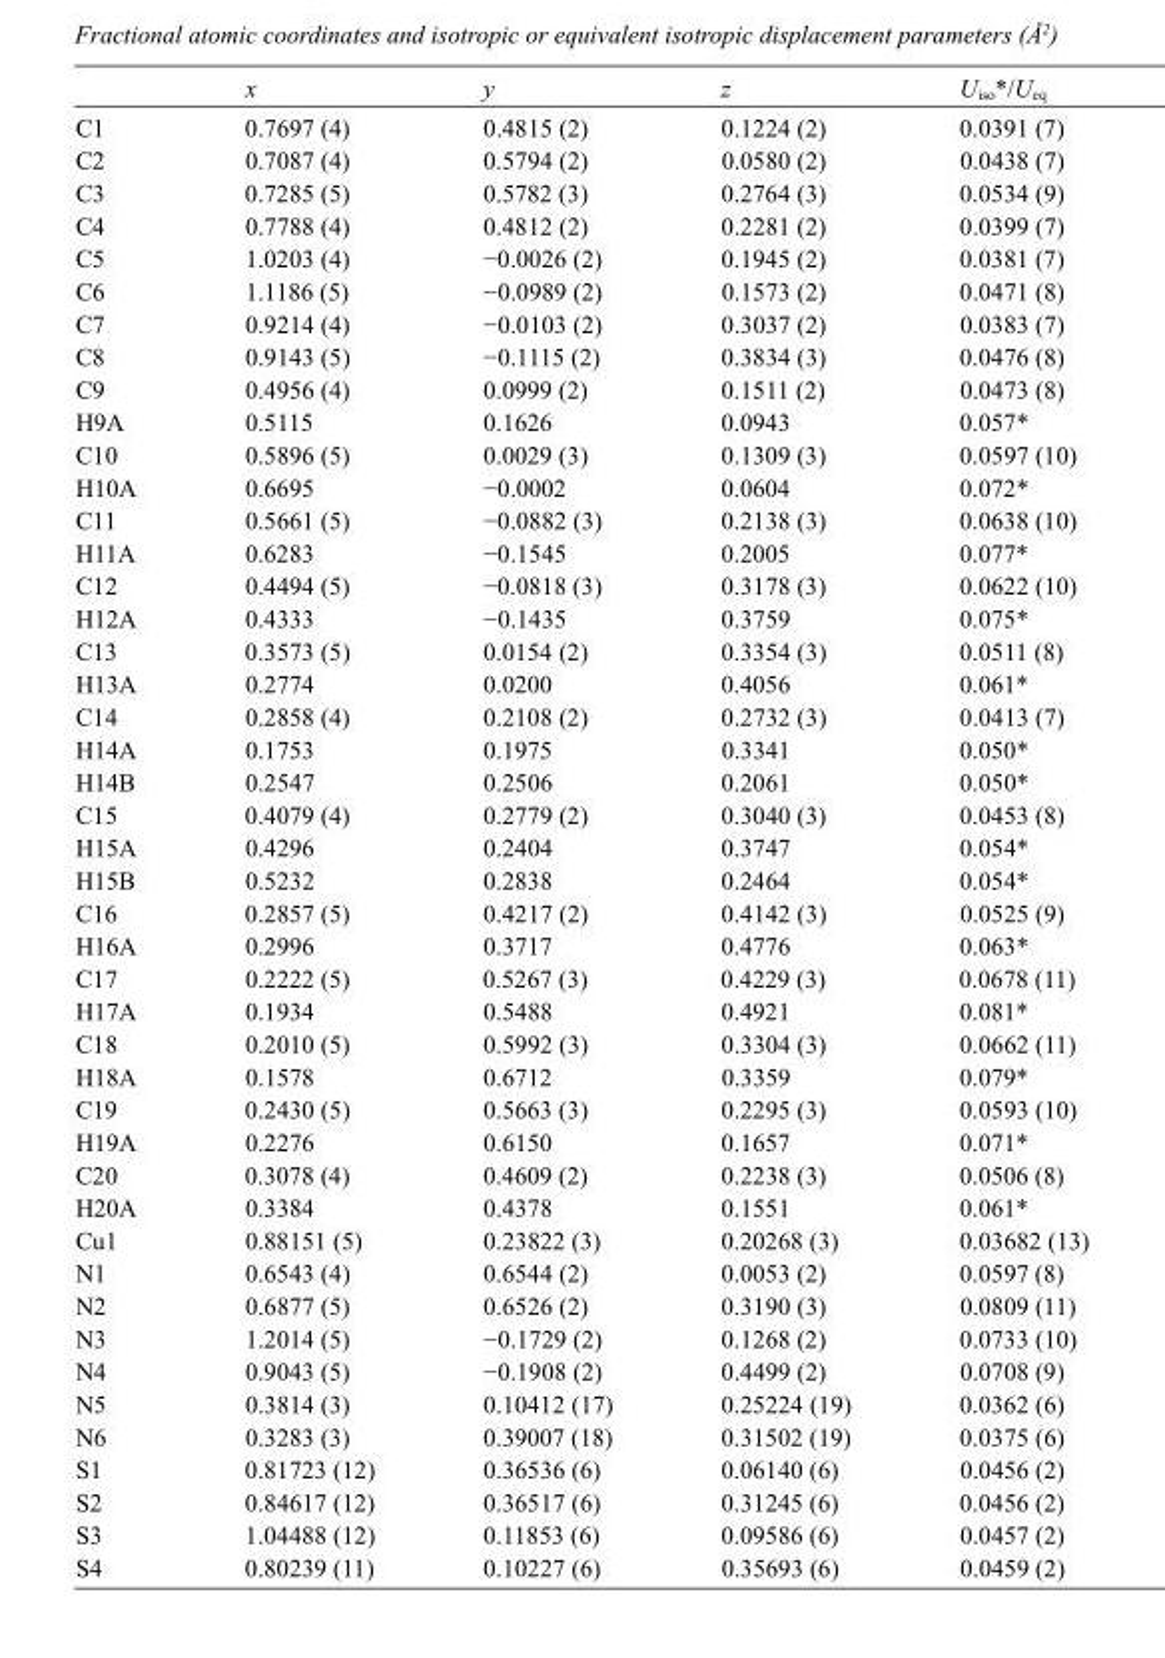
<table><thead><tr><td></td><td>x</td><td>y</td><td>z</td><td>U<sub>iso</sub>*/U<sub>eq</sub></td></tr></thead><tbody><tr><td>C1</td><td>0.7697 (4)</td><td>0.4815 (2)</td><td>0.1224 (2)</td><td>0.0391 (7)</td></tr><tr><td>C2</td><td>0.7087 (4)</td><td>0.5794 (2)</td><td>0.0580 (2)</td><td>0.0438 (7)</td></tr><tr><td>C3</td><td>0.7285 (5)</td><td>0.5782 (3)</td><td>0.2764 (3)</td><td>0.0534 (9)</td></tr><tr><td>C4</td><td>0.7788 (4)</td><td>0.4812 (2)</td><td>0.2281 (2)</td><td>0.0399 (7)</td></tr><tr><td>C5</td><td>1.0203 (4)</td><td>−0.0026 (2)</td><td>0.1945 (2)</td><td>0.0381 (7)</td></tr><tr><td>C6</td><td>1.1186 (5)</td><td>−0.0989 (2)</td><td>0.1573 (2)</td><td>0.0471 (8)</td></tr><tr><td>C7</td><td>0.9214 (4)</td><td>−0.0103 (2)</td><td>0.3037 (2)</td><td>0.0383 (7)</td></tr><tr><td>C8</td><td>0.9143 (5)</td><td>−0.1115 (2)</td><td>0.3834 (3)</td><td>0.0476 (8)</td></tr><tr><td>C9</td><td>0.4956 (4)</td><td>0.0999 (2)</td><td>0.1511 (2)</td><td>0.0473 (8)</td></tr><tr><td>H9A</td><td>0.5115</td><td>0.1626</td><td>0.0943</td><td>0.057*</td></tr><tr><td>C10</td><td>0.5896 (5)</td><td>0.0029 (3)</td><td>0.1309 (3)</td><td>0.0597 (10)</td></tr><tr><td>H10A</td><td>0.6695</td><td>−0.0002</td><td>0.0604</td><td>0.072*</td></tr><tr><td>C11</td><td>0.5661 (5)</td><td>−0.0882 (3)</td><td>0.2138 (3)</td><td>0.0638 (10)</td></tr><tr><td>H11A</td><td>0.6283</td><td>−0.1545</td><td>0.2005</td><td>0.077*</td></tr><tr><td>C12</td><td>0.4494 (5)</td><td>−0.0818 (3)</td><td>0.3178 (3)</td><td>0.0622 (10)</td></tr><tr><td>H12A</td><td>0.4333</td><td>−0.1435</td><td>0.3759</td><td>0.075*</td></tr><tr><td>C13</td><td>0.3573 (5)</td><td>0.0154 (2)</td><td>0.3354 (3)</td><td>0.0511 (8)</td></tr><tr><td>H13A</td><td>0.2774</td><td>0.0200</td><td>0.4056</td><td>0.061*</td></tr><tr><td>C14</td><td>0.2858 (4)</td><td>0.2108 (2)</td><td>0.2732 (3)</td><td>0.0413 (7)</td></tr><tr><td>H14A</td><td>0.1753</td><td>0.1975</td><td>0.3341</td><td>0.050*</td></tr><tr><td>H14B</td><td>0.2547</td><td>0.2506</td><td>0.2061</td><td>0.050*</td></tr><tr><td>C15</td><td>0.4079 (4)</td><td>0.2779 (2)</td><td>0.3040 (3)</td><td>0.0453 (8)</td></tr><tr><td>H15A</td><td>0.4296</td><td>0.2404</td><td>0.3747</td><td>0.054*</td></tr><tr><td>H15B</td><td>0.5232</td><td>0.2838</td><td>0.2464</td><td>0.054*</td></tr><tr><td>C16</td><td>0.2857 (5)</td><td>0.4217 (2)</td><td>0.4142 (3)</td><td>0.0525 (9)</td></tr><tr><td>H16A</td><td>0.2996</td><td>0.3717</td><td>0.4776</td><td>0.063*</td></tr><tr><td>C17</td><td>0.2222 (5)</td><td>0.5267 (3)</td><td>0.4229 (3)</td><td>0.0678 (11)</td></tr><tr><td>H17A</td><td>0.1934</td><td>0.5488</td><td>0.4921</td><td>0.081*</td></tr><tr><td>C18</td><td>0.2010 (5)</td><td>0.5992 (3)</td><td>0.3304 (3)</td><td>0.0662 (11)</td></tr><tr><td>H18A</td><td>0.1578</td><td>0.6712</td><td>0.3359</td><td>0.079*</td></tr><tr><td>C19</td><td>0.2430 (5)</td><td>0.5663 (3)</td><td>0.2295 (3)</td><td>0.0593 (10)</td></tr><tr><td>H19A</td><td>0.2276</td><td>0.6150</td><td>0.1657</td><td>0.071*</td></tr><tr><td>C20</td><td>0.3078 (4)</td><td>0.4609 (2)</td><td>0.2238 (3)</td><td>0.0506 (8)</td></tr><tr><td>H20A</td><td>0.3384</td><td>0.4378</td><td>0.1551</td><td>0.061*</td></tr><tr><td>Cu1</td><td>0.88151 (5)</td><td>0.23822 (3)</td><td>0.20268 (3)</td><td>0.03682 (13)</td></tr><tr><td>N1</td><td>0.6543 (4)</td><td>0.6544 (2)</td><td>0.0053 (2)</td><td>0.0597 (8)</td></tr><tr><td>N2</td><td>0.6877 (5)</td><td>0.6526 (2)</td><td>0.3190 (3)</td><td>0.0809 (11)</td></tr><tr><td>N3</td><td>1.2014 (5)</td><td>−0.1729 (2)</td><td>0.1268 (2)</td><td>0.0733 (10)</td></tr><tr><td>N4</td><td>0.9043 (5)</td><td>−0.1908 (2)</td><td>0.4499 (2)</td><td>0.0708 (9)</td></tr><tr><td>N5</td><td>0.3814 (3)</td><td>0.10412 (17)</td><td>0.25224 (19)</td><td>0.0362 (6)</td></tr><tr><td>N6</td><td>0.3283 (3)</td><td>0.39007 (18)</td><td>0.31502 (19)</td><td>0.0375 (6)</td></tr><tr><td>S1</td><td>0.81723 (12)</td><td>0.36536 (6)</td><td>0.06140 (6)</td><td>0.0456 (2)</td></tr><tr><td>S2</td><td>0.84617 (12)</td><td>0.36517 (6)</td><td>0.31245 (6)</td><td>0.0456 (2)</td></tr><tr><td>S3</td><td>1.04488 (12)</td><td>0.11853 (6)</td><td>0.09586 (6)</td><td>0.0457 (2)</td></tr><tr><td>S4</td><td>0.80239 (11)</td><td>0.10227 (6)</td><td>0.35693 (6)</td><td>0.0459 (2)</td></tr></tbody></table>